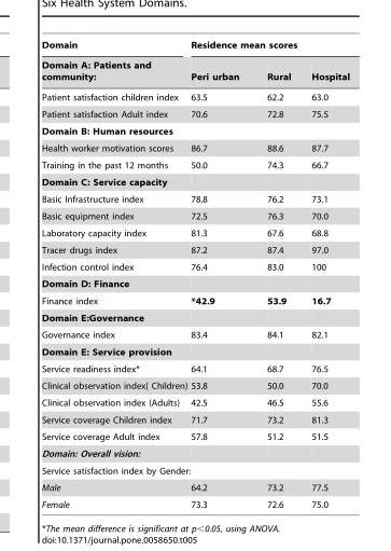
<table><thead><tr><td rowspan="2">Domain Domain A: Patients and community:</td><td colspan="3">Residence mean scores</td></tr><tr><td>Peri urban</td><td>Rural</td><td>Hospital</td></tr></thead><tbody><tr><td>Patient satisfaction children index</td><td>63.5</td><td>62.2</td><td>63.0</td></tr><tr><td>Patient satisfaction Adult index</td><td>70.6</td><td>72.8</td><td>75.5</td></tr><tr><td colspan="4">Domain B: Human resources</td></tr><tr><td>Health worker motivation scores</td><td>86.7</td><td>88.6</td><td>87.7</td></tr><tr><td>Training in the past 12 months</td><td>50.0</td><td>74.3</td><td>66.7</td></tr><tr><td colspan="4">Domain C: Service capacity</td></tr><tr><td>Basic Infrastructure index</td><td>78.8</td><td>76.2</td><td>73.1</td></tr><tr><td>Basic equipment index</td><td>72.5</td><td>76.3</td><td>70.0</td></tr><tr><td>Laboratory capacity index</td><td>81.3</td><td>67.6</td><td>68.8</td></tr><tr><td>Tracer drugs index</td><td>87.2</td><td>87.4</td><td>97.0</td></tr><tr><td>Infection control index</td><td>76.4</td><td>83.0</td><td>100</td></tr><tr><td colspan="4">Domain D: Finance</td></tr><tr><td>Finance index</td><td>*42.9</td><td>53.9</td><td>16.7</td></tr><tr><td colspan="4">Domain E:Governance</td></tr><tr><td>Governance index</td><td>83.4</td><td>84.1</td><td>82.1</td></tr><tr><td colspan="4">Domain E: Service provision</td></tr><tr><td>Service readiness index*</td><td>64.1</td><td>68.7</td><td>76.5</td></tr><tr><td>Clinical observation index( Children)</td><td>53.8</td><td>50.0</td><td>70.0</td></tr><tr><td>Clinical observation index (Adults)</td><td>42.5</td><td>46.5</td><td>55.6</td></tr><tr><td>Service coverage Children index</td><td>71.7</td><td>73.2</td><td>81.3</td></tr><tr><td>Service coverage Adult index</td><td>57.8</td><td>51.2</td><td>51.5</td></tr><tr><td colspan="4">Domain: Overall vision:</td></tr><tr><td colspan="4">Service satisfaction index by Gender:</td></tr><tr><td>Male</td><td>64.2</td><td>73.2</td><td>77.5</td></tr><tr><td>Female</td><td>73.3</td><td>72.6</td><td>75.0</td></tr></tbody></table>